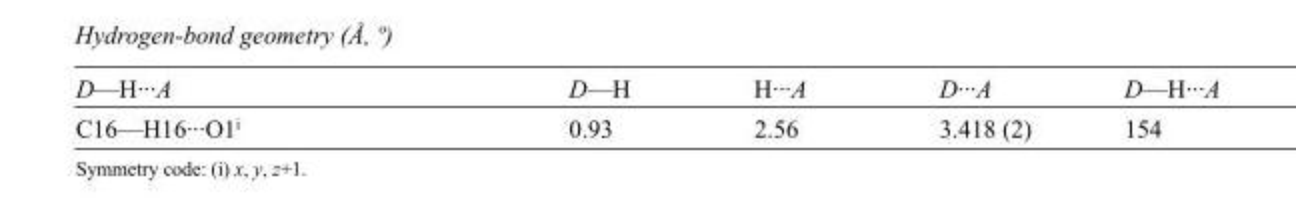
<table><tbody><tr><td>D—H···A</td><td>D—H</td><td>H···A</td><td>D···A</td><td>D—H···A</td></tr><tr><td>C16—H16···O1<sup>i</sup></td><td>0.93</td><td>2.56</td><td>3.418 (2)</td><td>154</td></tr></tbody></table>